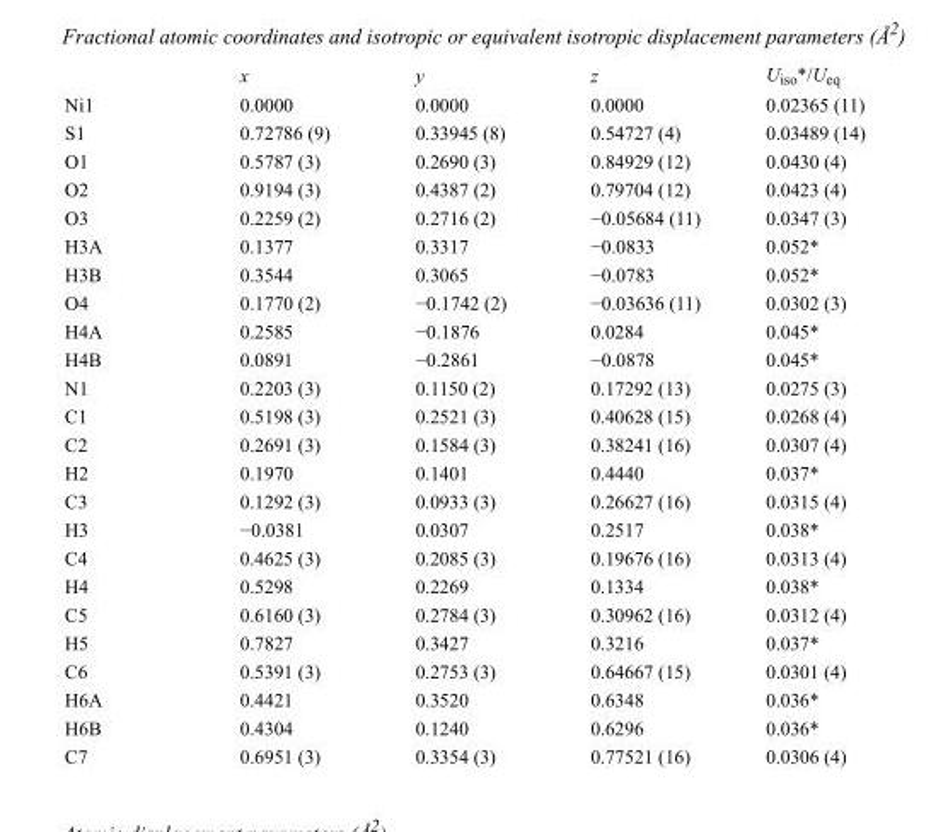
<table><thead><tr><td></td><td>x</td><td>y</td><td>z</td><td>U<sub>iso</sub>*/U<sub>eq</sub></td></tr></thead><tbody><tr><td>Ni1</td><td>0.0000</td><td>0.0000</td><td>0.0000</td><td>0.02365 (11)</td></tr><tr><td>S1</td><td>0.72786 (9)</td><td>0.33945 (8)</td><td>0.54727 (4)</td><td>0.03489 (14)</td></tr><tr><td>O1</td><td>0.5787 (3)</td><td>0.2690 (3)</td><td>0.84929 (12)</td><td>0.0430 (4)</td></tr><tr><td>O2</td><td>0.9194 (3)</td><td>0.4387 (2)</td><td>0.79704 (12)</td><td>0.0423 (4)</td></tr><tr><td>O3</td><td>0.2259 (2)</td><td>0.2716 (2)</td><td>−0.05684 (11)</td><td>0.0347 (3)</td></tr><tr><td>H3A</td><td>0.1377</td><td>0.3317</td><td>−0.0833</td><td>0.052*</td></tr><tr><td>H3B</td><td>0.3544</td><td>0.3065</td><td>−0.0783</td><td>0.052*</td></tr><tr><td>O4</td><td>0.1770 (2)</td><td>−0.1742 (2)</td><td>−0.03636 (11)</td><td>0.0302 (3)</td></tr><tr><td>H4A</td><td>0.2585</td><td>−0.1876</td><td>0.0284</td><td>0.045*</td></tr><tr><td>H4B</td><td>0.0891</td><td>−0.2861</td><td>−0.0878</td><td>0.045*</td></tr><tr><td>N1</td><td>0.2203 (3)</td><td>0.1150 (2)</td><td>0.17292 (13)</td><td>0.0275 (3)</td></tr><tr><td>C1</td><td>0.5198 (3)</td><td>0.2521 (3)</td><td>0.40628 (15)</td><td>0.0268 (4)</td></tr><tr><td>C2</td><td>0.2691 (3)</td><td>0.1584 (3)</td><td>0.38241 (16)</td><td>0.0307 (4)</td></tr><tr><td>H2</td><td>0.1970</td><td>0.1401</td><td>0.4440</td><td>0.037*</td></tr><tr><td>C3</td><td>0.1292 (3)</td><td>0.0933 (3)</td><td>0.26627 (16)</td><td>0.0315 (4)</td></tr><tr><td>H3</td><td>−0.0381</td><td>0.0307</td><td>0.2517</td><td>0.038*</td></tr><tr><td>C4</td><td>0.4625 (3)</td><td>0.2085 (3)</td><td>0.19676 (16)</td><td>0.0313 (4)</td></tr><tr><td>H4</td><td>0.5298</td><td>0.2269</td><td>0.1334</td><td>0.038*</td></tr><tr><td>C5</td><td>0.6160 (3)</td><td>0.2784 (3)</td><td>0.30962 (16)</td><td>0.0312 (4)</td></tr><tr><td>H5</td><td>0.7827</td><td>0.3427</td><td>0.3216</td><td>0.037*</td></tr><tr><td>C6</td><td>0.5391 (3)</td><td>0.2753 (3)</td><td>0.64667 (15)</td><td>0.0301 (4)</td></tr><tr><td>H6A</td><td>0.4421</td><td>0.3520</td><td>0.6348</td><td>0.036*</td></tr><tr><td>H6B</td><td>0.4304</td><td>0.1240</td><td>0.6296</td><td>0.036*</td></tr><tr><td>C7</td><td>0.6951 (3)</td><td>0.3354 (3)</td><td>0.77521 (16)</td><td>0.0306 (4)</td></tr></tbody></table>